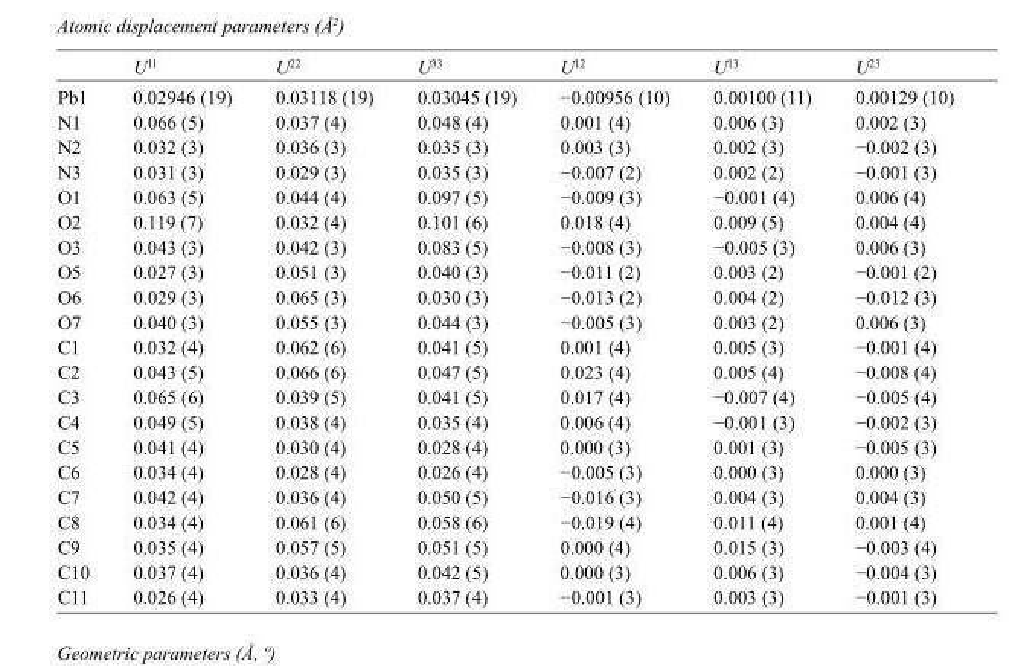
<table><thead><tr><td></td><td>U<sup>11</sup></td><td>U<sup>22</sup></td><td>U<sup>33</sup></td><td>U<sup>12</sup></td><td>U<sup>13</sup></td><td>U<sup>23</sup></td></tr></thead><tbody><tr><td>Pb1</td><td>0.02946 (19)</td><td>0.03118 (19)</td><td>0.03045 (19)</td><td>−0.00956 (10)</td><td>0.00100 (11)</td><td>0.00129 (10)</td></tr><tr><td>N1</td><td>0.066 (5)</td><td>0.037 (4)</td><td>0.048 (4)</td><td>0.001 (4)</td><td>0.006 (3)</td><td>0.002 (3)</td></tr><tr><td>N2</td><td>0.032 (3)</td><td>0.036 (3)</td><td>0.035 (3)</td><td>0.003 (3)</td><td>0.002 (3)</td><td>−0.002 (3)</td></tr><tr><td>N3</td><td>0.031 (3)</td><td>0.029 (3)</td><td>0.035 (3)</td><td>−0.007 (2)</td><td>0.002 (2)</td><td>−0.001 (3)</td></tr><tr><td>O1</td><td>0.063 (5)</td><td>0.044 (4)</td><td>0.097 (5)</td><td>−0.009 (3)</td><td>−0.001 (4)</td><td>0.006 (4)</td></tr><tr><td>O2</td><td>0.119 (7)</td><td>0.032 (4)</td><td>0.101 (6)</td><td>0.018 (4)</td><td>0.009 (5)</td><td>0.004 (4)</td></tr><tr><td>O3</td><td>0.043 (3)</td><td>0.042 (3)</td><td>0.083 (5)</td><td>−0.008 (3)</td><td>−0.005 (3)</td><td>0.006 (3)</td></tr><tr><td>O5</td><td>0.027 (3)</td><td>0.051 (3)</td><td>0.040 (3)</td><td>−0.011 (2)</td><td>0.003 (2)</td><td>−0.001 (2)</td></tr><tr><td>O6</td><td>0.029 (3)</td><td>0.065 (3)</td><td>0.030 (3)</td><td>−0.013 (2)</td><td>0.004 (2)</td><td>−0.012 (3)</td></tr><tr><td>O7</td><td>0.040 (3)</td><td>0.055 (3)</td><td>0.044 (3)</td><td>−0.005 (3)</td><td>0.003 (2)</td><td>0.006 (3)</td></tr><tr><td>C1</td><td>0.032 (4)</td><td>0.062 (6)</td><td>0.041 (5)</td><td>0.001 (4)</td><td>0.005 (3)</td><td>−0.001 (4)</td></tr><tr><td>C2</td><td>0.043 (5)</td><td>0.066 (6)</td><td>0.047 (5)</td><td>0.023 (4)</td><td>0.005 (4)</td><td>−0.008 (4)</td></tr><tr><td>C3</td><td>0.065 (6)</td><td>0.039 (5)</td><td>0.041 (5)</td><td>0.017 (4)</td><td>−0.007 (4)</td><td>−0.005 (4)</td></tr><tr><td>C4</td><td>0.049 (5)</td><td>0.038 (4)</td><td>0.035 (4)</td><td>0.006 (4)</td><td>−0.001 (3)</td><td>−0.002 (3)</td></tr><tr><td>C5</td><td>0.041 (4)</td><td>0.030 (4)</td><td>0.028 (4)</td><td>0.000 (3)</td><td>0.001 (3)</td><td>−0.005 (3)</td></tr><tr><td>C6</td><td>0.034 (4)</td><td>0.028 (4)</td><td>0.026 (4)</td><td>−0.005 (3)</td><td>0.000 (3)</td><td>0.000 (3)</td></tr><tr><td>C7</td><td>0.042 (4)</td><td>0.036 (4)</td><td>0.050 (5)</td><td>−0.016 (3)</td><td>0.004 (3)</td><td>0.004 (3)</td></tr><tr><td>C8</td><td>0.034 (4)</td><td>0.061 (6)</td><td>0.058 (6)</td><td>−0.019 (4)</td><td>0.011 (4)</td><td>0.001 (4)</td></tr><tr><td>C9</td><td>0.035 (4)</td><td>0.057 (5)</td><td>0.051 (5)</td><td>0.000 (4)</td><td>0.015 (3)</td><td>−0.003 (4)</td></tr><tr><td>C10</td><td>0.037 (4)</td><td>0.036 (4)</td><td>0.042 (5)</td><td>0.000 (3)</td><td>0.006 (3)</td><td>−0.004 (3)</td></tr><tr><td>C11</td><td>0.026 (4)</td><td>0.033 (4)</td><td>0.037 (4)</td><td>−0.001 (3)</td><td>0.003 (3)</td><td>−0.001 (3)</td></tr></tbody></table>